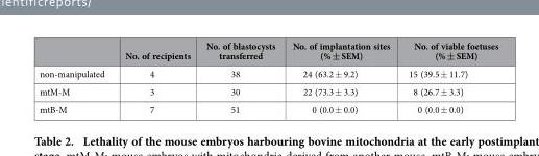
<table><thead><tr><td></td><td>No. of recipients</td><td>No. of blastocysts transferred</td><td>No. of implantation sites (% ± SEM)</td><td>No. of viable foetuses (% ± SEM)</td></tr></thead><tbody><tr><td>non-manipulated</td><td>4</td><td>38</td><td>24 (63.2 ± 9.2)</td><td>15 (39.5 ± 11.7)</td></tr><tr><td>mtM-M</td><td>3</td><td>30</td><td>22 (73.3 ± 3.3)</td><td>8 (26.7 ± 3.3)</td></tr><tr><td>mtB-M</td><td>7</td><td>51</td><td>0 (0.0 ± 0.0)</td><td>0 (0.0 ± 0.0)</td></tr></tbody></table>